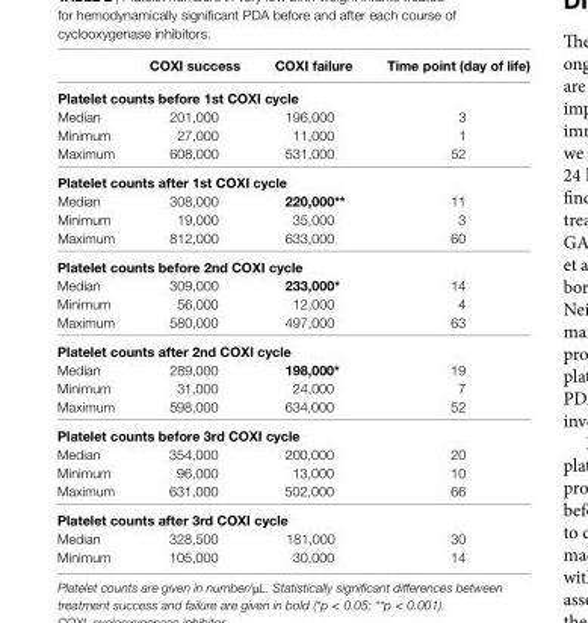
<table><thead><tr><td></td><td>cOXi success</td><td>cOXi failure</td><td>Time point (day of life)</td></tr></thead><tbody><tr><td colspan="4">Platelet counts before 1st cOXi cycle</td></tr><tr><td>Median</td><td>201,000</td><td>196,000</td><td>3</td></tr><tr><td>Minimum</td><td>27,000</td><td>11,000</td><td>1</td></tr><tr><td>Maximum</td><td>608,000</td><td>531,000</td><td>52</td></tr><tr><td colspan="4">Platelet counts after 1st cOXi cycle</td></tr><tr><td>Median</td><td>308,000</td><td>220,000**</td><td>11</td></tr><tr><td>Minimum</td><td>19,000</td><td>35,000</td><td>3</td></tr><tr><td>Maximum</td><td>812,000</td><td>633,000</td><td>60</td></tr><tr><td colspan="4">Platelet counts before 2nd cOXi cycle</td></tr><tr><td>Median</td><td>309,000</td><td>233,000*</td><td>14</td></tr><tr><td>Minimum</td><td>56,000</td><td>12,000</td><td>4</td></tr><tr><td>Maximum</td><td>580,000</td><td>497,000</td><td>63</td></tr><tr><td colspan="4">Platelet counts after 2nd cOXi cycle</td></tr><tr><td>Median</td><td>289,000</td><td>198,000*</td><td>19</td></tr><tr><td>Minimum</td><td>31,000</td><td>24,000</td><td>7</td></tr><tr><td>Maximum</td><td>598,000</td><td>634,000</td><td>52</td></tr><tr><td colspan="4">Platelet counts before 3rd cOXi cycle</td></tr><tr><td>Median</td><td>354,000</td><td>200,000</td><td>20</td></tr><tr><td>Minimum</td><td>96,000</td><td>13,000</td><td>10</td></tr><tr><td>Maximum</td><td>631,000</td><td>502,000</td><td>66</td></tr><tr><td colspan="4">Platelet counts after 3rd cOXi cycle</td></tr><tr><td>Median</td><td>328,500</td><td>181,000</td><td>30</td></tr><tr><td>Minimum</td><td>105,000</td><td>30,000</td><td>14</td></tr></tbody></table>